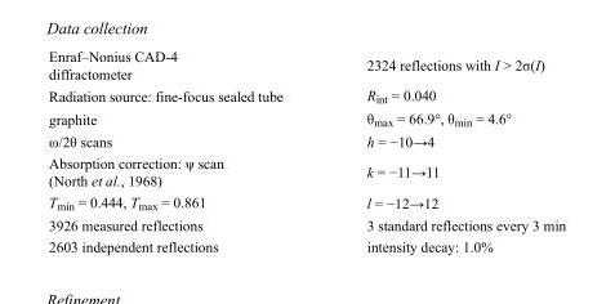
<table><tbody><tr><td>Enraf–Nonius CAD-4 diffractometer</td><td>2324 reflections with I &gt; 2σ(I)</td></tr><tr><td>Radiation source: fine-focus sealed tube</td><td>R<sub>int</sub> = 0.040</td></tr><tr><td>graphite</td><td>θ<sub>max</sub> = 66.9°, θ<sub>min</sub> = 4.6°</td></tr><tr><td>ω/2θ scans</td><td>h = −10→4</td></tr><tr><td>Absorption correction: ψ scan (North et al., 1968)</td><td>k = −11→11</td></tr><tr><td>T<sub>min</sub> = 0.444, T<sub>max</sub> = 0.861</td><td>l = −12→12</td></tr><tr><td>3926 measured reflections</td><td>3 standard reflections every 3 min</td></tr><tr><td>2603 independent reflections</td><td>intensity decay: 1.0%</td></tr></tbody></table>